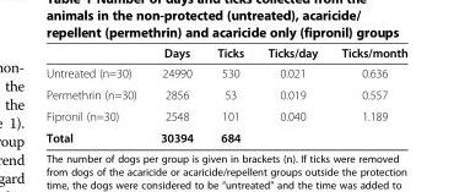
<table><thead><tr><td></td><td>Days</td><td>Ticks</td><td>Ticks/day</td><td>Ticks/month</td></tr></thead><tbody><tr><td>Untreated (n=30)</td><td>24990</td><td>530</td><td>0.021</td><td>0.636</td></tr><tr><td>Permethrin (n=30)</td><td>2856</td><td>53</td><td>0.019</td><td>0.557</td></tr><tr><td>Fipronil (n=30)</td><td>2548</td><td>101</td><td>0.040</td><td>1.189</td></tr><tr><td>Total</td><td>30394</td><td>684</td><td></td><td></td></tr></tbody></table>